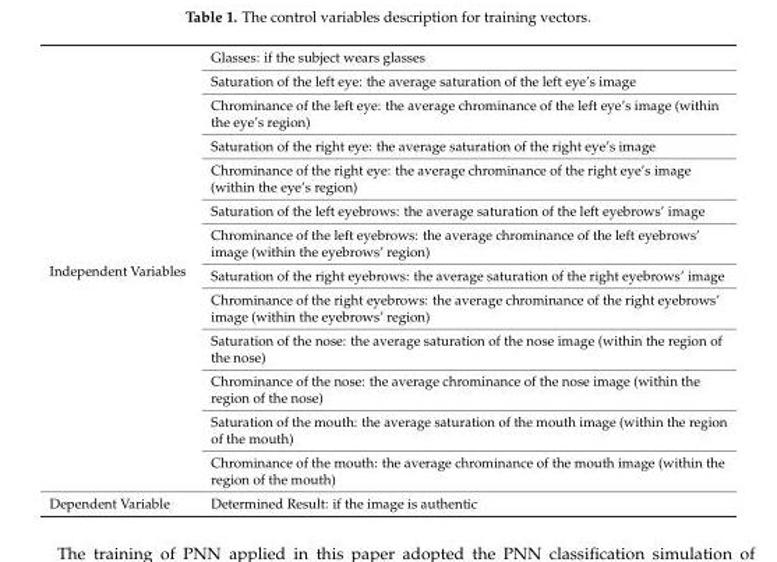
<table><tbody><tr><td rowspan="13">Independent Variables</td><td>Glasses: if the subject wears glasses</td></tr><tr><td>Saturation of the left eye: the average saturation of the left eye’s image</td></tr><tr><td>Chrominance of the left eye: the average chrominance of the left eye’s image (within the eye’s region)</td></tr><tr><td>Saturation of the right eye: the average saturation of the right eye’s image</td></tr><tr><td>Chrominance of the right eye: the average chrominance of the right eye’s image (within the eye’s region)</td></tr><tr><td>Saturation of the left eyebrows: the average saturation of the left eyebrows’ image</td></tr><tr><td>Chrominance of the left eyebrows: the average chrominance of the left eyebrows’ image (within the eyebrows’ region)</td></tr><tr><td>Saturation of the right eyebrows: the average saturation of the right eyebrows’ image</td></tr><tr><td>Chrominance of the right eyebrows: the average chrominance of the right eyebrows’ image (within the eyebrows’ region)</td></tr><tr><td>Saturation of the nose: the average saturation of the nose image (within the region of the nose)</td></tr><tr><td>Chrominance of the nose: the average chrominance of the nose image (within the region of the nose)</td></tr><tr><td>Saturation of the mouth: the average saturation of the mouth image (within the region of the mouth)</td></tr><tr><td>Chrominance of the mouth: the average chrominance of the mouth image (within the region of the mouth)</td></tr><tr><td>Dependent Variable</td><td>Determined Result: if the image is authentic</td></tr></tbody></table>